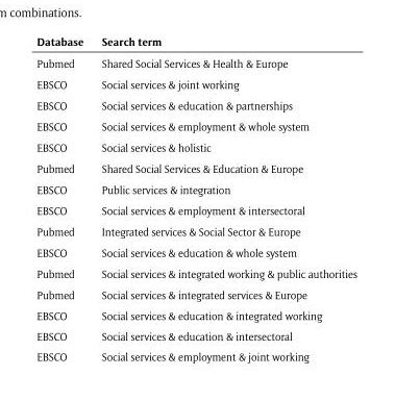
<table><thead><tr><td>Database</td><td>Search term</td></tr></thead><tbody><tr><td>Pubmed</td><td>Shared Social Services &amp; Health &amp; Europe</td></tr><tr><td>EBSCO</td><td>Social services &amp; joint working</td></tr><tr><td>EBSCO</td><td>Social services &amp; education &amp; partnerships</td></tr><tr><td>EBSCO</td><td>Social services &amp; employment &amp; whole system</td></tr><tr><td>EBSCO</td><td>Social services &amp; holistic</td></tr><tr><td>Pubmed</td><td>Shared Social Services &amp; Education &amp; Europe</td></tr><tr><td>EBSCO</td><td>Public services &amp; integration</td></tr><tr><td>EBSCO</td><td>Social services &amp; employment &amp; intersectoral</td></tr><tr><td>Pubmed</td><td>Integrated services &amp; Social Sector &amp; Europe</td></tr><tr><td>EBSCO</td><td>Social services &amp; education &amp; whole system</td></tr><tr><td>Pubmed</td><td>Social services &amp; integrated working &amp; public authorities</td></tr><tr><td>Pubmed</td><td>Social services &amp; integrated services &amp; Europe</td></tr><tr><td>EBSCO</td><td>Social services &amp; education &amp; integrated working</td></tr><tr><td>EBSCO</td><td>Social services &amp; education &amp; intersectoral</td></tr><tr><td>EBSCO</td><td>Social services &amp; employment &amp; joint working</td></tr></tbody></table>